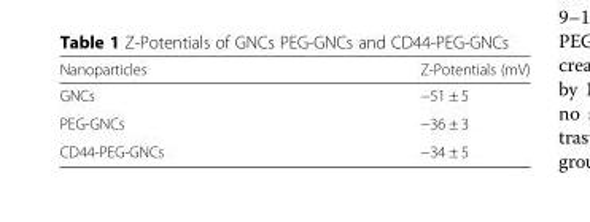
<table><thead><tr><td>Nanoparticles</td><td>Z-Potentials (mV)</td></tr></thead><tbody><tr><td>GNCs</td><td>−51 ± 5</td></tr><tr><td>PEG-GNCs</td><td>−36 ± 3</td></tr><tr><td>CD44-PEG-GNCs</td><td>−34 ± 5</td></tr></tbody></table>